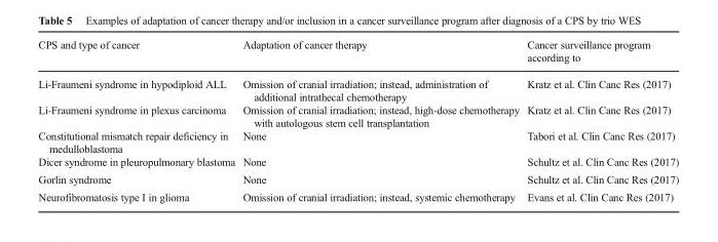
<table><thead><tr><td>CPS and type of cancer</td><td>Adaptation of cancer therapy</td><td>Cancer surveillance program according to</td></tr></thead><tbody><tr><td>Li-Fraumeni syndrome in hypodiploid ALL</td><td>Omission of cranial irradiation; instead, administration of additional intrathecal chemotherapy</td><td>Kratz et al. Clin Canc Res (2017)</td></tr><tr><td>Li-Fraumeni syndrome in plexus carcinoma</td><td>Omission of cranial irradiation; instead, high-dose chemotherapy with autologous stem cell transplantation</td><td>Kratz et al. Clin Canc Res (2017)</td></tr><tr><td>Constitutional mismatch repair deficiency in medulloblastoma</td><td>None</td><td>Tabori et al. Clin Canc Res (2017)</td></tr><tr><td>Dicer syndrome in pleuropulmonary blastoma</td><td>None</td><td>Schultz et al. Clin Canc Res (2017)</td></tr><tr><td>Gorlin syndrome</td><td>None</td><td>Schultz et al. Clin Canc Res (2017)</td></tr><tr><td>Neurofibromatosis type I in glioma</td><td>Omission of cranial irradiation; instead, systemic chemotherapy</td><td>Evans et al. Clin Canc Res (2017)</td></tr></tbody></table>